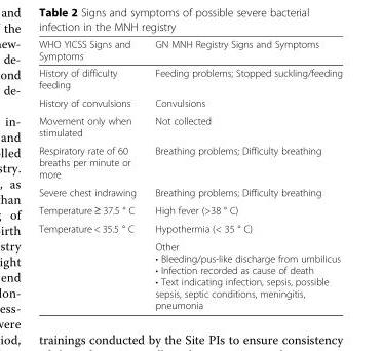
<table><thead><tr><td>WHO YICSS Signs and Symptoms</td><td>GN MNH Registry Signs and Symptoms</td></tr></thead><tbody><tr><td>History of difficulty feeding</td><td>Feeding problems; Stopped suckling/feeding</td></tr><tr><td>History of convulsions</td><td>Convulsions</td></tr><tr><td>Movement only when stimulated</td><td>Not collected</td></tr><tr><td>Respiratory rate of 60 breaths per minute or more</td><td>Breathing problems; Difficulty breathing</td></tr><tr><td>Severe chest indrawing</td><td>Breathing problems; Difficulty breathing</td></tr><tr><td>Temperature ≥ 37.5 ° C</td><td>High fever (&gt;38 ° C)</td></tr><tr><td rowspan="2">Temperature &lt; 35.5 ° C</td><td>Hypothermia (&lt; 35 ° C)</td></tr><tr><td>Other • Bleeding/pus-like discharge from umbilicus • Infection recorded as cause of death • Text indicating infection, sepsis, possible sepsis, septic conditions, meningitis, pneumonia</td></tr></tbody></table>